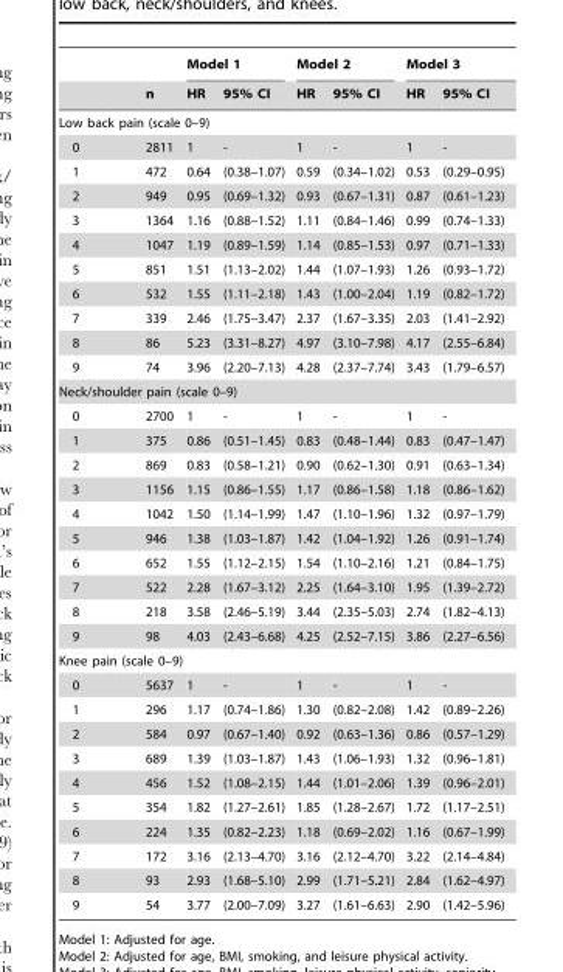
<table><thead><tr><td rowspan="2"></td><td rowspan="2">n</td><td colspan="2">Model 1</td><td colspan="2">Model 2</td><td colspan="2">Model 3</td></tr><tr><td>HR</td><td>95% CI</td><td>HR</td><td>95% CI</td><td>HR</td><td>95% CI</td></tr></thead><tbody><tr><td colspan="8">Low back pain (scale 0–9)</td></tr><tr><td>0</td><td>2811</td><td>1</td><td>-</td><td>1</td><td>-</td><td>1</td><td>-</td></tr><tr><td>1</td><td>472</td><td>0.64</td><td>(0.38–1.07)</td><td>0.59</td><td>(0.34–1.02)</td><td>0.53</td><td>(0.29–0.95)</td></tr><tr><td>2</td><td>949</td><td>0.95</td><td>(0.69–1.32)</td><td>0.93</td><td>(0.67–1.31)</td><td>0.87</td><td>(0.61–1.23)</td></tr><tr><td>3</td><td>1364</td><td>1.16</td><td>(0.88–1.52)</td><td>1.11</td><td>(0.84–1.46)</td><td>0.99</td><td>(0.74–1.33)</td></tr><tr><td>4</td><td>1047</td><td>1.19</td><td>(0.89–1.59)</td><td>1.14</td><td>(0.85–1.53)</td><td>0.97</td><td>(0.71–1.33)</td></tr><tr><td>5</td><td>851</td><td>1.51</td><td>(1.13–2.02)</td><td>1.44</td><td>(1.07–1.93)</td><td>1.26</td><td>(0.93–1.72)</td></tr><tr><td>6</td><td>532</td><td>1.55</td><td>(1.11–2.18)</td><td>1.43</td><td>(1.00–2.04)</td><td>1.19</td><td>(0.82–1.72)</td></tr><tr><td>7</td><td>339</td><td>2.46</td><td>(1.75–3.47)</td><td>2.37</td><td>(1.67–3.35)</td><td>2.03</td><td>(1.41–2.92)</td></tr><tr><td>8</td><td>86</td><td>5.23</td><td>(3.31–8.27)</td><td>4.97</td><td>(3.10–7.98)</td><td>4.17</td><td>(2.55–6.84)</td></tr><tr><td>9</td><td>74</td><td>3.96</td><td>(2.20–7.13)</td><td>4.28</td><td>(2.37–7.74)</td><td>3.43</td><td>(1.79–6.57)</td></tr><tr><td colspan="8">Neck/shoulder pain (scale 0–9)</td></tr><tr><td>0</td><td>2700</td><td>1</td><td>-</td><td>1</td><td>-</td><td>1</td><td>-</td></tr><tr><td>1</td><td>375</td><td>0.86</td><td>(0.51–1.45)</td><td>0.83</td><td>(0.48–1.44)</td><td>0.83</td><td>(0.47–1.47)</td></tr><tr><td>2</td><td>869</td><td>0.83</td><td>(0.58–1.21)</td><td>0.90</td><td>(0.62–1.30)</td><td>0.91</td><td>(0.63–1.34)</td></tr><tr><td>3</td><td>1156</td><td>1.15</td><td>(0.86–1.55)</td><td>1.17</td><td>(0.86–1.58)</td><td>1.18</td><td>(0.86–1.62)</td></tr><tr><td>4</td><td>1042</td><td>1.50</td><td>(1.14–1.99)</td><td>1.47</td><td>(1.10–1.96)</td><td>1.32</td><td>(0.97–1.79)</td></tr><tr><td>5</td><td>946</td><td>1.38</td><td>(1.03–1.87)</td><td>1.42</td><td>(1.04–1.92)</td><td>1.26</td><td>(0.91–1.74)</td></tr><tr><td>6</td><td>652</td><td>1.55</td><td>(1.12–2.15)</td><td>1.54</td><td>(1.10–2.16)</td><td>1.21</td><td>(0.84–1.75)</td></tr><tr><td>7</td><td>522</td><td>2.28</td><td>(1.67–3.12)</td><td>2.25</td><td>(1.64–3.10)</td><td>1.95</td><td>(1.39–2.72)</td></tr><tr><td>8</td><td>218</td><td>3.58</td><td>(2.46–5.19)</td><td>3.44</td><td>(2.35–5.03)</td><td>2.74</td><td>(1.82–4.13)</td></tr><tr><td>9</td><td>98</td><td>4.03</td><td>(2.43–6.68)</td><td>4.25</td><td>(2.52–7.15)</td><td>3.86</td><td>(2.27–6.56)</td></tr><tr><td colspan="8">Knee pain (scale 0–9)</td></tr><tr><td>0</td><td>5637</td><td>1</td><td>-</td><td>1</td><td>-</td><td>1</td><td>-</td></tr><tr><td>1</td><td>296</td><td>1.17</td><td>(0.74–1.86)</td><td>1.30</td><td>(0.82–2.08)</td><td>1.42</td><td>(0.89–2.26)</td></tr><tr><td>2</td><td>584</td><td>0.97</td><td>(0.67–1.40)</td><td>0.92</td><td>(0.63–1.36)</td><td>0.86</td><td>(0.57–1.29)</td></tr><tr><td>3</td><td>689</td><td>1.39</td><td>(1.03–1.87)</td><td>1.43</td><td>(1.06–1.93)</td><td>1.32</td><td>(0.96–1.81)</td></tr><tr><td>4</td><td>456</td><td>1.52</td><td>(1.08–2.15)</td><td>1.44</td><td>(1.01–2.06)</td><td>1.39</td><td>(0.96–2.01)</td></tr><tr><td>5</td><td>354</td><td>1.82</td><td>(1.27–2.61)</td><td>1.85</td><td>(1.28–2.67)</td><td>1.72</td><td>(1.17–2.51)</td></tr><tr><td>6</td><td>224</td><td>1.35</td><td>(0.82–2.23)</td><td>1.18</td><td>(0.69–2.02)</td><td>1.16</td><td>(0.67–1.99)</td></tr><tr><td>7</td><td>172</td><td>3.16</td><td>(2.13–4.70)</td><td>3.16</td><td>(2.12–4.70)</td><td>3.22</td><td>(2.14–4.84)</td></tr><tr><td>8</td><td>93</td><td>2.93</td><td>(1.68–5.10)</td><td>2.99</td><td>(1.71–5.21)</td><td>2.84</td><td>(1.62–4.97)</td></tr><tr><td>9</td><td>54</td><td>3.77</td><td>(2.00–7.09)</td><td>3.27</td><td>(1.61–6.63)</td><td>2.90</td><td>(1.42–5.96)</td></tr></tbody></table>